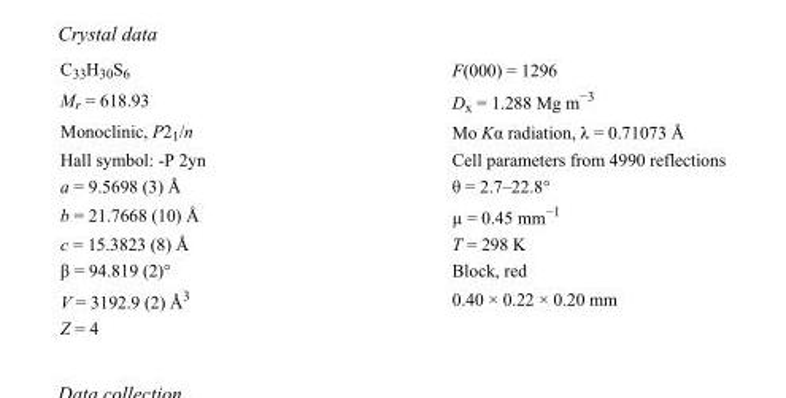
<table><tbody><tr><td>C<sub>33</sub>H<sub>30</sub>S<sub>6</sub></td><td>F(000) = 1296</td></tr><tr><td>M<sub>r</sub> = 618.93</td><td>D<sub>x</sub> = 1.288 Mg m<sup>−3</sup></td></tr><tr><td>Monoclinic, P2<sub>1</sub>/n</td><td>Mo Kα radiation, λ = 0.71073 Å</td></tr><tr><td>Hall symbol: -P 2yn</td><td>Cell parameters from 4990 reflections</td></tr><tr><td>a = 9.5698 (3) Å</td><td>θ = 2.7–22.8°</td></tr><tr><td>b = 21.7668 (10) Å</td><td>µ = 0.45 mm<sup>−1</sup></td></tr><tr><td>c = 15.3823 (8) Å</td><td>T = 298 K</td></tr><tr><td>β = 94.819 (2)°</td><td>Block, red</td></tr><tr><td>V = 3192.9 (2) Å<sup>3</sup></td><td>0.40 × 0.22 × 0.20 mm</td></tr><tr><td>Z = 4</td><td></td></tr></tbody></table>